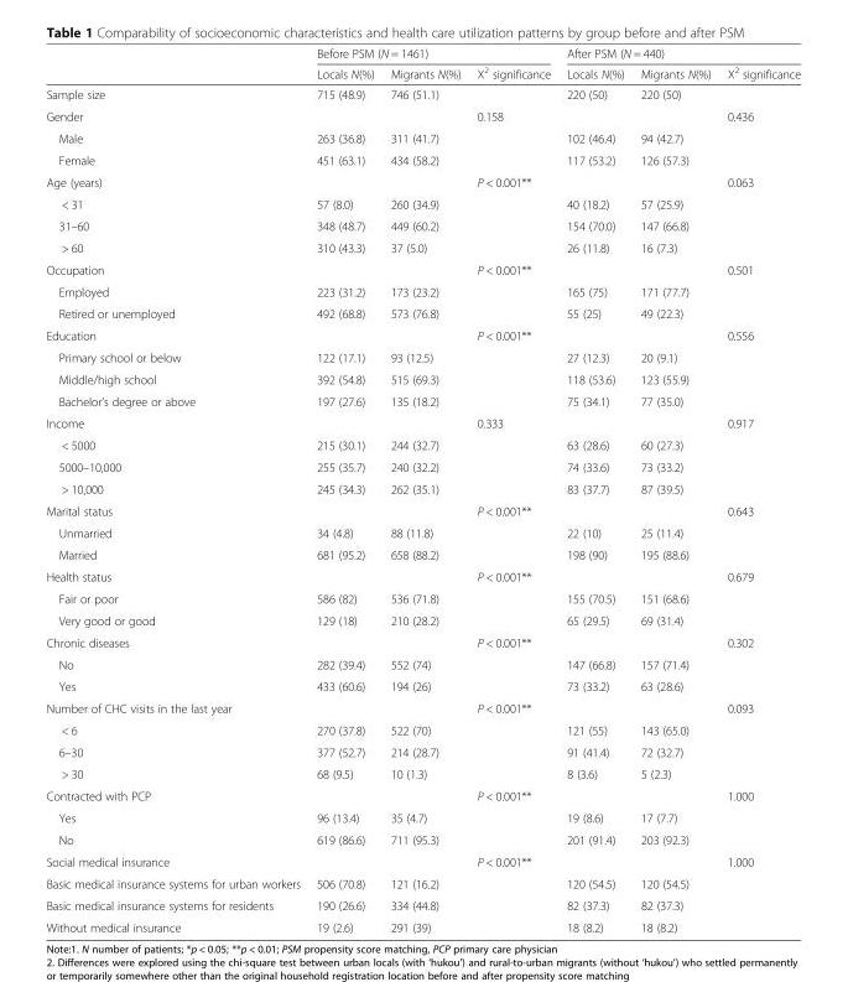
<table><thead><tr><td rowspan="2"></td><td colspan="3">Before PSM (N = 1461)</td><td colspan="3">After PSM (N = 440)</td></tr><tr><td>Locals N(%)</td><td>Migrants N(%)</td><td>X<sup>2</sup> significance</td><td>Locals N(%)</td><td>Migrants N(%)</td><td>X<sup>2</sup> significance</td></tr></thead><tbody><tr><td>Sample size</td><td>715 (48.9)</td><td>746 (51.1)</td><td></td><td>220 (50)</td><td>220 (50)</td><td></td></tr><tr><td>Gender</td><td></td><td></td><td>0.158</td><td></td><td></td><td>0.436</td></tr><tr><td>Male</td><td>263 (36.8)</td><td>311 (41.7)</td><td></td><td>102 (46.4)</td><td>94 (42.7)</td><td></td></tr><tr><td>Female</td><td>451 (63.1)</td><td>434 (58.2)</td><td></td><td>117 (53.2)</td><td>126 (57.3)</td><td></td></tr><tr><td>Age (years)</td><td></td><td></td><td>P &lt; 0.001**</td><td></td><td></td><td>0.063</td></tr><tr><td>&lt; 31</td><td>57 (8.0)</td><td>260 (34.9)</td><td></td><td>40 (18.2)</td><td>57 (25.9)</td><td></td></tr><tr><td>31–60</td><td>348 (48.7)</td><td>449 (60.2)</td><td></td><td>154 (70.0)</td><td>147 (66.8)</td><td></td></tr><tr><td>&gt; 60</td><td>310 (43.3)</td><td>37 (5.0)</td><td></td><td>26 (11.8)</td><td>16 (7.3)</td><td></td></tr><tr><td>Occupation</td><td></td><td></td><td>P &lt; 0.001**</td><td></td><td></td><td>0.501</td></tr><tr><td>Employed</td><td>223 (31.2)</td><td>173 (23.2)</td><td></td><td>165 (75)</td><td>171 (77.7)</td><td></td></tr><tr><td>Retired or unemployed</td><td>492 (68.8)</td><td>573 (76.8)</td><td></td><td>55 (25)</td><td>49 (22.3)</td><td></td></tr><tr><td>Education</td><td></td><td></td><td>P &lt; 0.001**</td><td></td><td></td><td>0.556</td></tr><tr><td>Primary school or below</td><td>122 (17.1)</td><td>93 (12.5)</td><td></td><td>27 (12.3)</td><td>20 (9.1)</td><td></td></tr><tr><td>Middle/high school</td><td>392 (54.8)</td><td>515 (69.3)</td><td></td><td>118 (53.6)</td><td>123 (55.9)</td><td></td></tr><tr><td>Bachelor’s degree or above</td><td>197 (27.6)</td><td>135 (18.2)</td><td></td><td>75 (34.1)</td><td>77 (35.0)</td><td></td></tr><tr><td>Income</td><td></td><td></td><td>0.333</td><td></td><td></td><td>0.917</td></tr><tr><td>&lt; 5000</td><td>215 (30.1)</td><td>244 (32.7)</td><td></td><td>63 (28.6)</td><td>60 (27.3)</td><td></td></tr><tr><td>5000–10,000</td><td>255 (35.7)</td><td>240 (32.2)</td><td></td><td>74 (33.6)</td><td>73 (33.2)</td><td></td></tr><tr><td>&gt; 10,000</td><td>245 (34.3)</td><td>262 (35.1)</td><td></td><td>83 (37.7)</td><td>87 (39.5)</td><td></td></tr><tr><td>Marital status</td><td></td><td></td><td>P &lt; 0.001**</td><td></td><td></td><td>0.643</td></tr><tr><td>Unmarried</td><td>34 (4.8)</td><td>88 (11.8)</td><td></td><td>22 (10)</td><td>25 (11.4)</td><td></td></tr><tr><td>Married</td><td>681 (95.2)</td><td>658 (88.2)</td><td></td><td>198 (90)</td><td>195 (88.6)</td><td></td></tr><tr><td>Health status</td><td></td><td></td><td>P &lt; 0.001**</td><td></td><td></td><td>0.679</td></tr><tr><td>Fair or poor</td><td>586 (82)</td><td>536 (71.8)</td><td></td><td>155 (70.5)</td><td>151 (68.6)</td><td></td></tr><tr><td>Very good or good</td><td>129 (18)</td><td>210 (28.2)</td><td></td><td>65 (29.5)</td><td>69 (31.4)</td><td></td></tr><tr><td>Chronic diseases</td><td></td><td></td><td>P &lt; 0.001**</td><td></td><td></td><td>0.302</td></tr><tr><td>No</td><td>282 (39.4)</td><td>552 (74)</td><td></td><td>147 (66.8)</td><td>157 (71.4)</td><td></td></tr><tr><td>Yes</td><td>433 (60.6)</td><td>194 (26)</td><td></td><td>73 (33.2)</td><td>63 (28.6)</td><td></td></tr><tr><td>Number of CHC visits in the last year</td><td></td><td></td><td>P &lt; 0.001**</td><td></td><td></td><td>0.093</td></tr><tr><td>&lt; 6</td><td>270 (37.8)</td><td>522 (70)</td><td></td><td>121 (55)</td><td>143 (65.0)</td><td></td></tr><tr><td>6–30</td><td>377 (52.7)</td><td>214 (28.7)</td><td></td><td>91 (41.4)</td><td>72 (32.7)</td><td></td></tr><tr><td>&gt; 30</td><td>68 (9.5)</td><td>10 (1.3)</td><td></td><td>8 (3.6)</td><td>5 (2.3)</td><td></td></tr><tr><td>Contracted with PCP</td><td></td><td></td><td>P &lt; 0.001**</td><td></td><td></td><td>1.000</td></tr><tr><td>Yes</td><td>96 (13.4)</td><td>35 (4.7)</td><td></td><td>19 (8.6)</td><td>17 (7.7)</td><td></td></tr><tr><td>No</td><td>619 (86.6)</td><td>711 (95.3)</td><td></td><td>201 (91.4)</td><td>203 (92.3)</td><td></td></tr><tr><td>Social medical insurance</td><td></td><td></td><td>P &lt; 0.001**</td><td></td><td></td><td>1.000</td></tr><tr><td>Basic medical insurance systems for urban workers</td><td>506 (70.8)</td><td>121 (16.2)</td><td></td><td>120 (54.5)</td><td>120 (54.5)</td><td></td></tr><tr><td>Basic medical insurance systems for residents</td><td>190 (26.6)</td><td>334 (44.8)</td><td></td><td>82 (37.3)</td><td>82 (37.3)</td><td></td></tr><tr><td>Without medical insurance</td><td>19 (2.6)</td><td>291 (39)</td><td></td><td>18 (8.2)</td><td>18 (8.2)</td><td></td></tr></tbody></table>